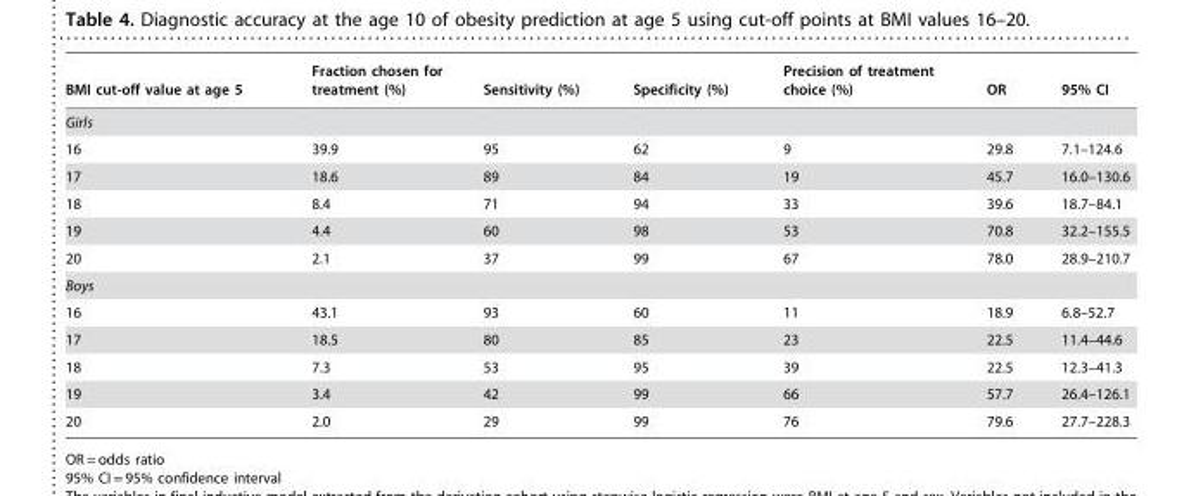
<table><thead><tr><td>BMI cut-off value at age 5</td><td>Fraction chosen for treatment (%)</td><td>Sensitivity (%)</td><td>Specificity (%)</td><td>Precision of treatment choice (%)</td><td>OR</td><td>95% CI</td></tr></thead><tbody><tr><td colspan="7">Girls</td></tr><tr><td>16</td><td>39.9</td><td>95</td><td>62</td><td>9</td><td>29.8</td><td>7.1–124.6</td></tr><tr><td>17</td><td>18.6</td><td>89</td><td>84</td><td>19</td><td>45.7</td><td>16.0–130.6</td></tr><tr><td>18</td><td>8.4</td><td>71</td><td>94</td><td>33</td><td>39.6</td><td>18.7–84.1</td></tr><tr><td>19</td><td>4.4</td><td>60</td><td>98</td><td>53</td><td>70.8</td><td>32.2–155.5</td></tr><tr><td>20</td><td>2.1</td><td>37</td><td>99</td><td>67</td><td>78.0</td><td>28.9–210.7</td></tr><tr><td colspan="7">Boys</td></tr><tr><td>16</td><td>43.1</td><td>93</td><td>60</td><td>11</td><td>18.9</td><td>6.8–52.7</td></tr><tr><td>17</td><td>18.5</td><td>80</td><td>85</td><td>23</td><td>22.5</td><td>11.4–44.6</td></tr><tr><td>18</td><td>7.3</td><td>53</td><td>95</td><td>39</td><td>22.5</td><td>12.3–41.3</td></tr><tr><td>19</td><td>3.4</td><td>42</td><td>99</td><td>66</td><td>57.7</td><td>26.4–126.1</td></tr><tr><td>20</td><td>2.0</td><td>29</td><td>99</td><td>76</td><td>79.6</td><td>27.7–228.3</td></tr></tbody></table>